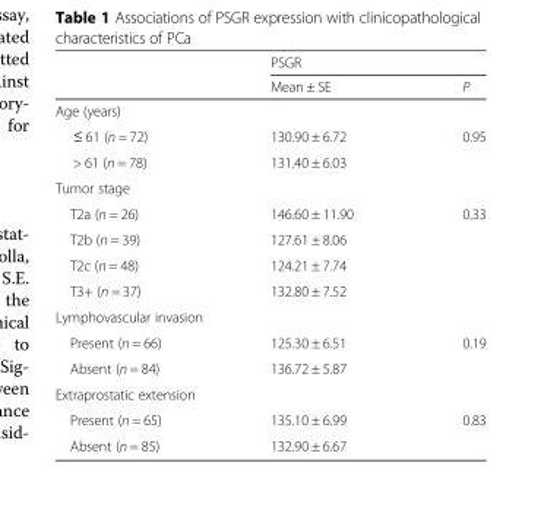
<table><thead><tr><td rowspan="2"></td><td colspan="2">PSGR</td></tr><tr><td>Mean ± SE</td><td>P</td></tr></thead><tbody><tr><td colspan="3">Age (years)</td></tr><tr><td>≤ 61 (n = 72)</td><td>130.90 ± 6.72</td><td>0.95</td></tr><tr><td>&gt; 61 (n = 78)</td><td>131.40 ± 6.03</td><td></td></tr><tr><td colspan="3">Tumor stage</td></tr><tr><td>T2a (n = 26)</td><td>146.60 ± 11.90</td><td>0.33</td></tr><tr><td>T2b (n = 39)</td><td>127.61 ± 8.06</td><td></td></tr><tr><td>T2c (n = 48)</td><td>124.21 ± 7.74</td><td></td></tr><tr><td>T3+ (n = 37)</td><td>132.80 ± 7.52</td><td></td></tr><tr><td colspan="3">Lymphovascular invasion</td></tr><tr><td>Present (n = 66)</td><td>125.30 ± 6.51</td><td>0.19</td></tr><tr><td>Absent (n = 84)</td><td>136.72 ± 5.87</td><td></td></tr><tr><td colspan="3">Extraprostatic extension</td></tr><tr><td>Present (n = 65)</td><td>135.10 ± 6.99</td><td>0.83</td></tr><tr><td>Absent (n = 85)</td><td>132.90 ± 6.67</td><td></td></tr></tbody></table>